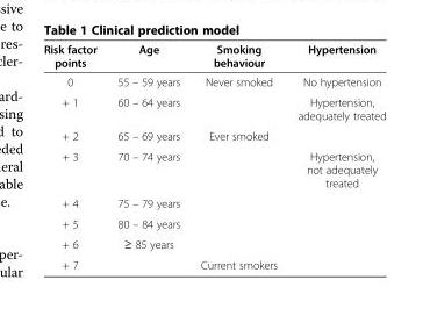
<table><thead><tr><td>Risk factor points</td><td>Age</td><td>Smoking behaviour</td><td>Hypertension</td></tr></thead><tbody><tr><td>0</td><td>55 – 59 years</td><td>Never smoked</td><td>No hypertension</td></tr><tr><td>+ 1</td><td>60 – 64 years</td><td></td><td>Hypertension, adequately treated</td></tr><tr><td>+ 2</td><td>65 – 69 years</td><td>Ever smoked</td><td></td></tr><tr><td>+ 3</td><td>70 – 74 years</td><td></td><td>Hypertension, not adequately treated</td></tr><tr><td>+ 4</td><td>75 – 79 years</td><td></td><td></td></tr><tr><td>+ 5</td><td>80 – 84 years</td><td></td><td></td></tr><tr><td>+ 6</td><td>≥ 85 years</td><td></td><td></td></tr><tr><td>+ 7</td><td></td><td>Current smokers</td><td></td></tr></tbody></table>